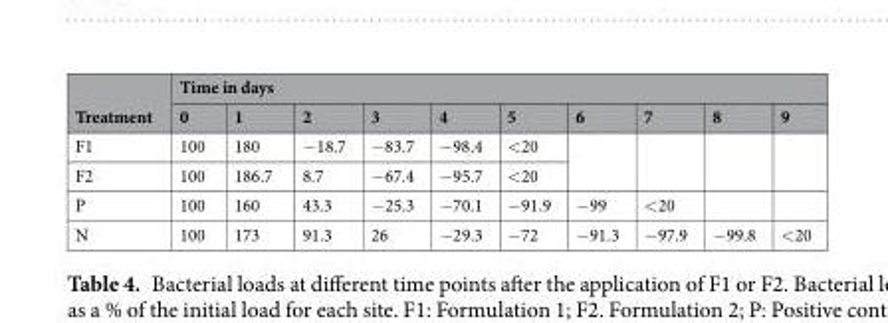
<table><thead><tr><td rowspan="2">Treatment</td><td colspan="10">Time in days</td></tr><tr><td>0</td><td>1</td><td>2</td><td>3</td><td>4</td><td>5</td><td>6</td><td>7</td><td>8</td><td>9</td></tr></thead><tbody><tr><td>F1</td><td>100</td><td>180</td><td>−18.7</td><td>−83.7</td><td>−98.4</td><td>&lt;20</td><td rowspan="2"></td><td rowspan="2"></td><td rowspan="2"></td><td rowspan="2"></td></tr><tr><td>F2</td><td>100</td><td>186.7</td><td>8.7</td><td>−67.4</td><td>−95.7</td><td>&lt;20</td></tr><tr><td>P</td><td>100</td><td>160</td><td>43.3</td><td>−25.3</td><td>−70.1</td><td>−91.9</td><td>−99</td><td>&lt;20</td><td></td><td></td></tr><tr><td>N</td><td>100</td><td>173</td><td>91.3</td><td>26</td><td>−29.3</td><td>−72</td><td>−91.3</td><td>−97.9</td><td>−99.8</td><td>&lt;20</td></tr></tbody></table>